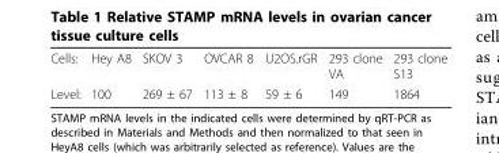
<table><tbody><tr><td>Cells:</td><td>Hey A8</td><td>SKOV 3</td><td>OVCAR 8</td><td>U2OS.rGR</td><td>293 clone VA</td><td>293 clone S13</td></tr><tr><td>Level:</td><td>100</td><td>269 ± 67</td><td>113 ± 8</td><td>59 ± 6</td><td>149</td><td>1864</td></tr></tbody></table>